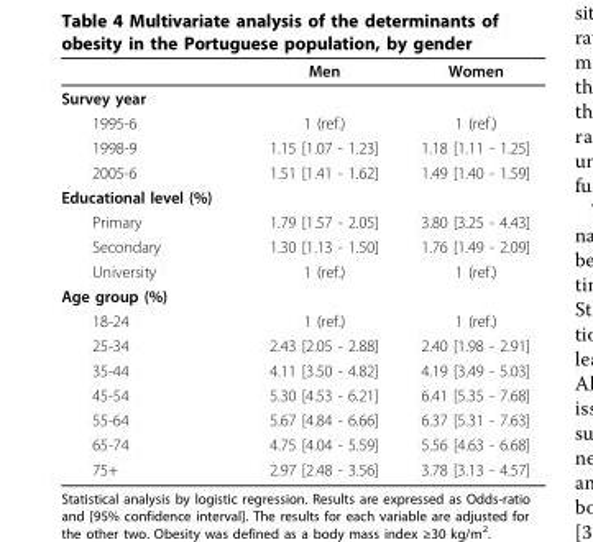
<table><thead><tr><td></td><td>Men</td><td>Women</td></tr></thead><tbody><tr><td colspan="3">Survey year</td></tr><tr><td>1995-6</td><td>1 (ref.)</td><td>1 (ref.)</td></tr><tr><td>1998-9</td><td>1.15 [1.07 - 1.23]</td><td>1.18 [1.11 - 1.25]</td></tr><tr><td>2005-6</td><td>1.51 [1.41 - 1.62]</td><td>1.49 [1.40 - 1.59]</td></tr><tr><td colspan="3">Educational level (%)</td></tr><tr><td>Primary</td><td>1.79 [1.57 - 2.05]</td><td>3.80 [3.25 - 4.43]</td></tr><tr><td>Secondary</td><td>1.30 [1.13 - 1.50]</td><td>1.76 [1.49 - 2.09]</td></tr><tr><td>University</td><td>1 (ref.)</td><td>1 (ref.)</td></tr><tr><td colspan="3">Age group (%)</td></tr><tr><td>18-24</td><td>1 (ref.)</td><td>1 (ref.)</td></tr><tr><td>25-34</td><td>2.43 [2.05 - 2.88]</td><td>2.40 [1.98 - 2.91]</td></tr><tr><td>35-44</td><td>4.11 [3.50 - 4.82]</td><td>4.19 [3.49 - 5.03]</td></tr><tr><td>45-54</td><td>5.30 [4.53 - 6.21]</td><td>6.41 [5.35 - 7.68]</td></tr><tr><td>55-64</td><td>5.67 [4.84 - 6.66]</td><td>6.37 [5.31 - 7.63]</td></tr><tr><td>65-74</td><td>4.75 [4.04 - 5.59]</td><td>5.56 [4.63 - 6.68]</td></tr><tr><td>75+</td><td>2.97 [2.48 - 3.56]</td><td>3.78 [3.13 - 4.57]</td></tr></tbody></table>